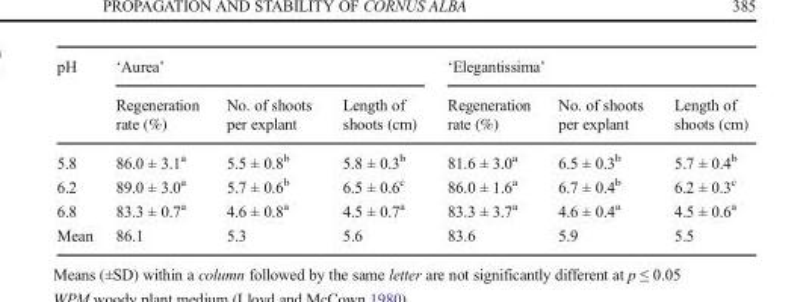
<table><thead><tr><td rowspan="2">pH</td><td colspan="3">‘Aurea’</td><td colspan="3">‘Elegantissima’</td></tr><tr><td>Regeneration rate (%)</td><td>No. of shoots per explant</td><td>Length of shoots (cm)</td><td>Regeneration rate (%)</td><td>No. of shoots per explant</td><td>Length of shoots (cm)</td></tr></thead><tbody><tr><td>5.8</td><td>86.0 ± 3.1<sup>a</sup></td><td>5.5 ± 0.8<sup>b</sup></td><td>5.8 ± 0.3<sup>b</sup></td><td>81.6 ± 3.0<sup>a</sup></td><td>6.5 ± 0.3<sup>b</sup></td><td>5.7 ± 0.4<sup>b</sup></td></tr><tr><td>6.2</td><td>89.0 ± 3.0<sup>a</sup></td><td>5.7 ± 0.6<sup>b</sup></td><td>6.5 ± 0.6<sup>c</sup></td><td>86.0 ± 1.6<sup>a</sup></td><td>6.7 ± 0.4<sup>b</sup></td><td>6.2 ± 0.3<sup>c</sup></td></tr><tr><td>6.8</td><td>83.3 ± 0.7<sup>a</sup></td><td>4.6 ± 0.8<sup>a</sup></td><td>4.5 ± 0.7<sup>a</sup></td><td>83.3 ± 3.7<sup>a</sup></td><td>4.6 ± 0.4<sup>a</sup></td><td>4.5 ± 0.6<sup>a</sup></td></tr><tr><td>Mean</td><td>86.1</td><td>5.3</td><td>5.6</td><td>83.6</td><td>5.9</td><td>5.5</td></tr></tbody></table>